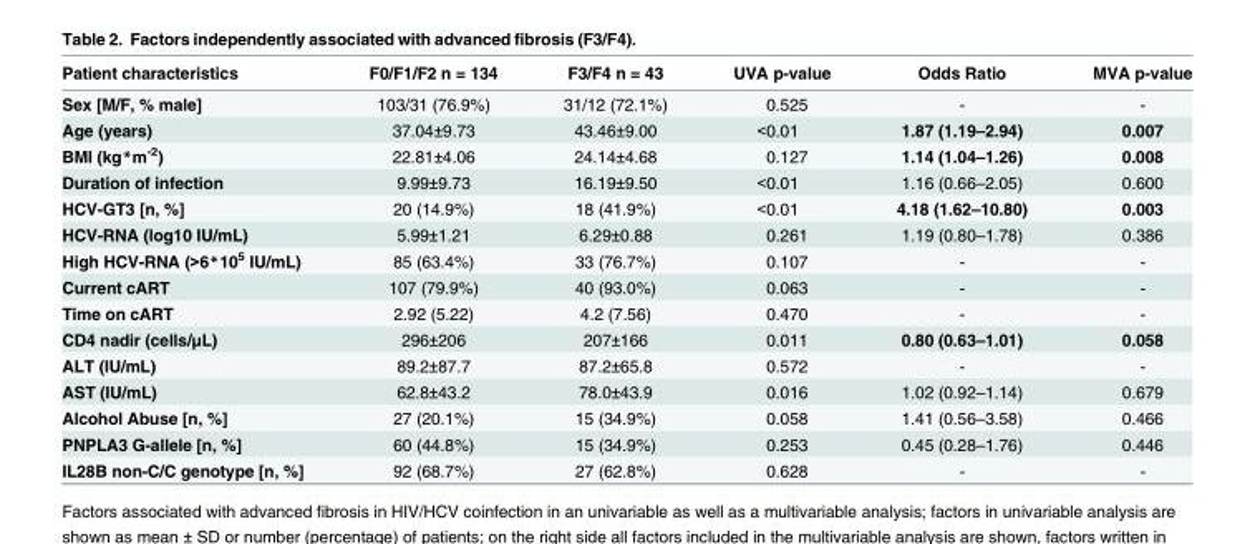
<table><thead><tr><td>Patient characteristics</td><td>F0/F1/F2 n = 134</td><td>F3/F4 n = 43</td><td>UVA p-value</td><td>Odds Ratio</td><td>MVA p-value</td></tr></thead><tbody><tr><td>Sex [M/F, % male]</td><td>103/31 (76.9%)</td><td>31/12 (72.1%)</td><td>0.525</td><td>-</td><td>-</td></tr><tr><td>Age (years)</td><td>37.04±9.73</td><td>43.46±9.00</td><td>&lt;0.01</td><td>1.87 (1.19–2.94)</td><td>0.007</td></tr><tr><td>BMI (kg*m<sup>-2</sup>)</td><td>22.81±4.06</td><td>24.14±4.68</td><td>0.127</td><td>1.14 (1.04–1.26)</td><td>0.008</td></tr><tr><td>Duration of infection</td><td>9.99±9.73</td><td>16.19±9.50</td><td>&lt;0.01</td><td>1.16 (0.66–2.05)</td><td>0.600</td></tr><tr><td>HCV-GT3 [n, %]</td><td>20 (14.9%)</td><td>18 (41.9%)</td><td>&lt;0.01</td><td>4.18 (1.62–10.80)</td><td>0.003</td></tr><tr><td>HCV-RNA (log10 IU/mL)</td><td>5.99±1.21</td><td>6.29±0.88</td><td>0.261</td><td>1.19 (0.80–1.78)</td><td>0.386</td></tr><tr><td>High HCV-RNA (&gt;6*10<sup>5</sup> IU/mL)</td><td>85 (63.4%)</td><td>33 (76.7%)</td><td>0.107</td><td>-</td><td>-</td></tr><tr><td>Current cART</td><td>107 (79.9%)</td><td>40 (93.0%)</td><td>0.063</td><td>-</td><td>-</td></tr><tr><td>Time on cART</td><td>2.92 (5.22)</td><td>4.2 (7.56)</td><td>0.470</td><td>-</td><td>-</td></tr><tr><td>CD4 nadir (cells/μL)</td><td>296±206</td><td>207±166</td><td>0.011</td><td>0.80 (0.63–1.01)</td><td>0.058</td></tr><tr><td>ALT (IU/mL)</td><td>89.2±87.7</td><td>87.2±65.8</td><td>0.572</td><td>-</td><td>-</td></tr><tr><td>AST (IU/mL)</td><td>62.8±43.2</td><td>78.0±43.9</td><td>0.016</td><td>1.02 (0.92–1.14)</td><td>0.679</td></tr><tr><td>Alcohol Abuse [n, %]</td><td>27 (20.1%)</td><td>15 (34.9%)</td><td>0.058</td><td>1.41 (0.56–3.58)</td><td>0.466</td></tr><tr><td>PNPLA3 G-allele [n, %]</td><td>60 (44.8%)</td><td>15 (34.9%)</td><td>0.253</td><td>0.45 (0.28–1.76)</td><td>0.446</td></tr><tr><td>IL28B non-C/C genotype [n, %]</td><td>92 (68.7%)</td><td>27 (62.8%)</td><td>0.628</td><td>-</td><td>-</td></tr></tbody></table>